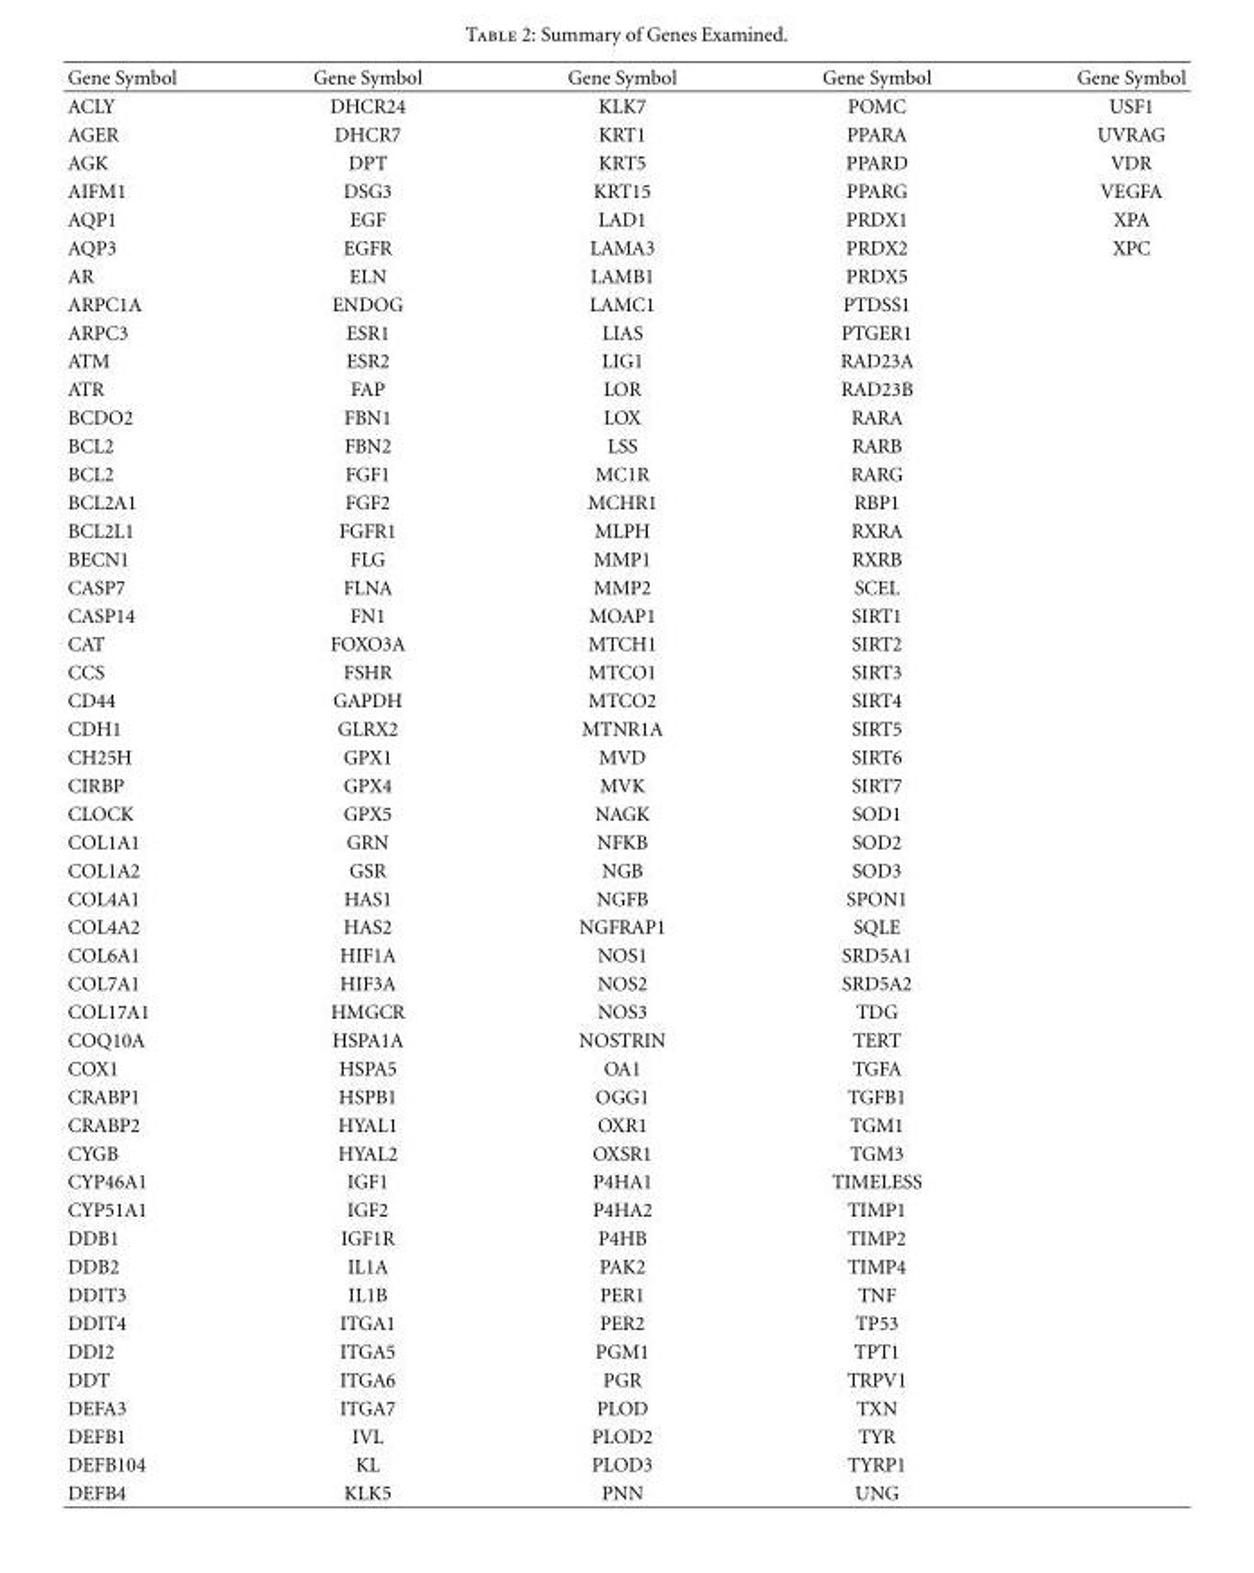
<table><thead><tr><td>Gene Symbol</td><td>Gene Symbol</td><td>Gene Symbol</td><td>Gene Symbol</td><td>Gene Symbol</td></tr></thead><tbody><tr><td>ACLY</td><td>DHCR24</td><td>KLK7</td><td>POMC</td><td>USF1</td></tr><tr><td>AGER</td><td>DHCR7</td><td>KRT1</td><td>PPARA</td><td>UVRAG</td></tr><tr><td>AGK</td><td>DPT</td><td>KRT5</td><td>PPARD</td><td>VDR</td></tr><tr><td>AIFM1</td><td>DSG3</td><td>KRT15</td><td>PPARG</td><td>VEGFA</td></tr><tr><td>AQP1</td><td>EGF</td><td>LAD1</td><td>PRDX1</td><td>XPA</td></tr><tr><td>AQP3</td><td>EGFR</td><td>LAMA3</td><td>PRDX2</td><td>XPC</td></tr><tr><td>AR</td><td>ELN</td><td>LAMB1</td><td>PRDX5</td><td></td></tr><tr><td>ARPC1A</td><td>ENDOG</td><td>LAMC1</td><td>PTDSS1</td><td></td></tr><tr><td>ARPC3</td><td>ESR1</td><td>LIAS</td><td>PTGER1</td><td></td></tr><tr><td>ATM</td><td>ESR2</td><td>LIG1</td><td>RAD23A</td><td></td></tr><tr><td>ATR</td><td>FAP</td><td>LOR</td><td>RAD23B</td><td></td></tr><tr><td>BCDO2</td><td>FBN1</td><td>LOX</td><td>RARA</td><td></td></tr><tr><td>BCL2</td><td>FBN2</td><td>LSS</td><td>RARB</td><td></td></tr><tr><td>BCL2</td><td>FGF1</td><td>MC1R</td><td>RARG</td><td></td></tr><tr><td>BCL2A1</td><td>FGF2</td><td>MCHR1</td><td>RBP1</td><td></td></tr><tr><td>BCL2L1</td><td>FGFR1</td><td>MLPH</td><td>RXRA</td><td></td></tr><tr><td>BECN1</td><td>FLG</td><td>MMP1</td><td>RXRB</td><td></td></tr><tr><td>CASP7</td><td>FLNA</td><td>MMP2</td><td>SCEL</td><td></td></tr><tr><td>CASP14</td><td>FN1</td><td>MOAP1</td><td>SIRT1</td><td></td></tr><tr><td>CAT</td><td>FOXO3A</td><td>MTCH1</td><td>SIRT2</td><td></td></tr><tr><td>CCS</td><td>FSHR</td><td>MTCO1</td><td>SIRT3</td><td></td></tr><tr><td>CD44</td><td>GAPDH</td><td>MTCO2</td><td>SIRT4</td><td></td></tr><tr><td>CDH1</td><td>GLRX2</td><td>MTNR1A</td><td>SIRT5</td><td></td></tr><tr><td>CH25H</td><td>GPX1</td><td>MVD</td><td>SIRT6</td><td></td></tr><tr><td>CIRBP</td><td>GPX4</td><td>MVK</td><td>SIRT7</td><td></td></tr><tr><td>CLOCK</td><td>GPX5</td><td>NAGK</td><td>SOD1</td><td></td></tr><tr><td>COL1A1</td><td>GRN</td><td>NFKB</td><td>SOD2</td><td></td></tr><tr><td>COL1A2</td><td>GSR</td><td>NGB</td><td>SOD3</td><td></td></tr><tr><td>COL4A1</td><td>HAS1</td><td>NGFB</td><td>SPON1</td><td></td></tr><tr><td>COL4A2</td><td>HAS2</td><td>NGFRAP1</td><td>SQLE</td><td></td></tr><tr><td>COL6A1</td><td>HIF1A</td><td>NOS1</td><td>SRD5A1</td><td></td></tr><tr><td>COL7A1</td><td>HIF3A</td><td>NOS2</td><td>SRD5A2</td><td></td></tr><tr><td>COL17A1</td><td>HMGCR</td><td>NOS3</td><td>TDG</td><td></td></tr><tr><td>COQ10A</td><td>HSPA1A</td><td>NOSTRIN</td><td>TERT</td><td></td></tr><tr><td>COX1</td><td>HSPA5</td><td>OA1</td><td>TGFA</td><td></td></tr><tr><td>CRABP1</td><td>HSPB1</td><td>OGG1</td><td>TGFB1</td><td></td></tr><tr><td>CRABP2</td><td>HYAL1</td><td>OXR1</td><td>TGM1</td><td></td></tr><tr><td>CYGB</td><td>HYAL2</td><td>OXSR1</td><td>TGM3</td><td></td></tr><tr><td>CYP46A1</td><td>IGF1</td><td>P4HA1</td><td>TIMELESS</td><td></td></tr><tr><td>CYP51A1</td><td>IGF2</td><td>P4HA2</td><td>TIMP1</td><td></td></tr><tr><td>DDB1</td><td>IGF1R</td><td>P4HB</td><td>TIMP2</td><td></td></tr><tr><td>DDB2</td><td>IL1A</td><td>PAK2</td><td>TIMP4</td><td></td></tr><tr><td>DDIT3</td><td>IL1B</td><td>PER1</td><td>TNF</td><td></td></tr><tr><td>DDIT4</td><td>ITGA1</td><td>PER2</td><td>TP53</td><td></td></tr><tr><td>DDI2</td><td>ITGA5</td><td>PGM1</td><td>TPT1</td><td></td></tr><tr><td>DDT</td><td>ITGA6</td><td>PGR</td><td>TRPV1</td><td></td></tr><tr><td>DEFA3</td><td>ITGA7</td><td>PLOD</td><td>TXN</td><td></td></tr><tr><td>DEFB1</td><td>IVL</td><td>PLOD2</td><td>TYR</td><td></td></tr><tr><td>DEFB104</td><td>KL</td><td>PLOD3</td><td>TYRP1</td><td></td></tr><tr><td>DEFB4</td><td>KLK5</td><td>PNN</td><td>UNG</td><td></td></tr></tbody></table>